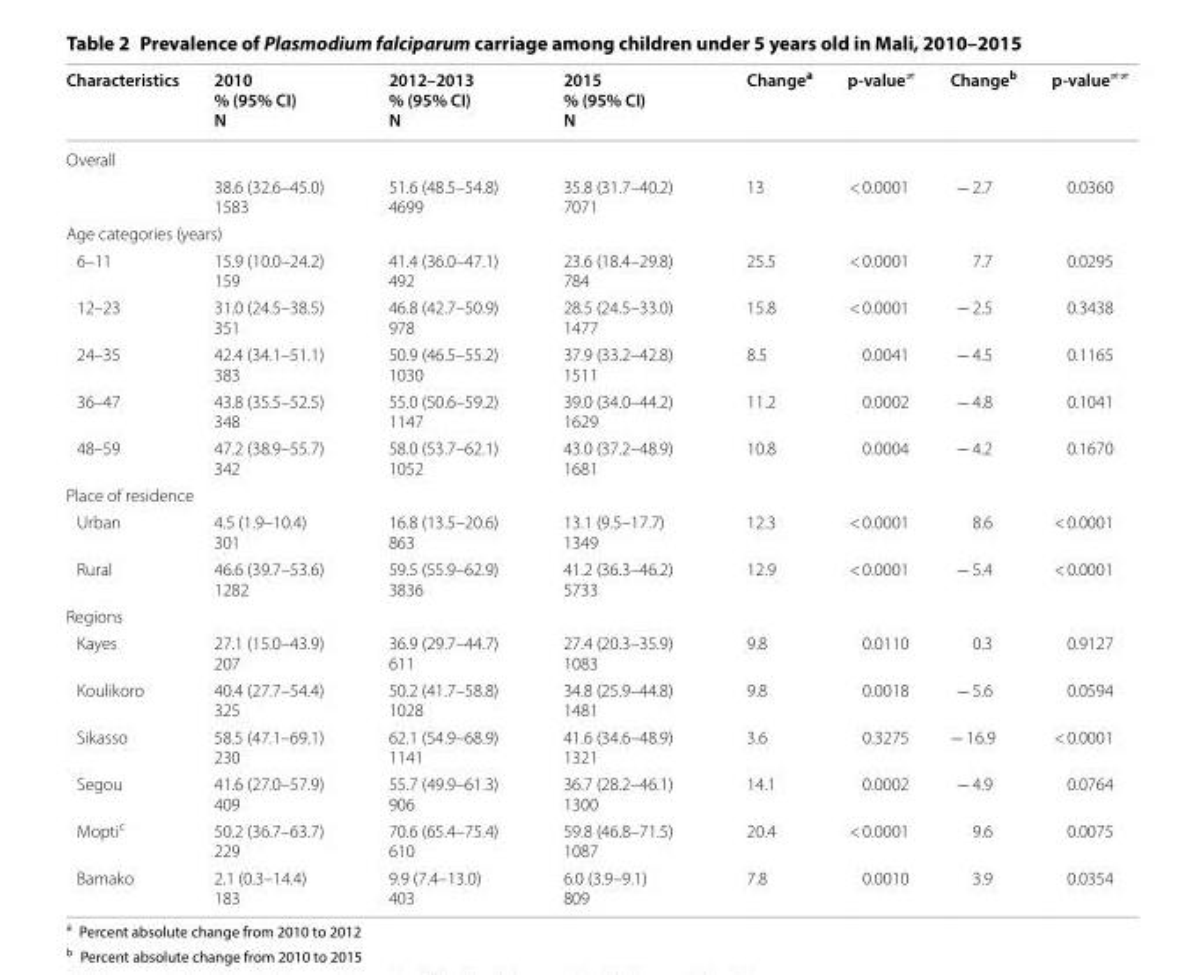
<table><thead><tr><td>Characteristics</td><td>2010 % (95% CI) N</td><td>2012–2013 % (95% CI) N</td><td>2015 % (95% CI) N</td><td>Change<sup>a</sup></td><td>p-value<sup>≠</sup></td><td>Change<sup>b</sup></td><td>p-value<sup>≠≠</sup></td></tr></thead><tbody><tr><td colspan="8">Overall</td></tr><tr><td></td><td>38.6 (32.6–45.0) 1583</td><td>51.6 (48.5–54.8) 4699</td><td>35.8 (31.7–40.2) 7071</td><td>13</td><td>&lt; 0.0001</td><td>− 2.7</td><td>0.0360</td></tr><tr><td colspan="8">Age categories (years)</td></tr><tr><td>6–11</td><td>15.9 (10.0–24.2) 159</td><td>41.4 (36.0–47.1) 492</td><td>23.6 (18.4–29.8) 784</td><td>25.5</td><td>&lt; 0.0001</td><td>7.7</td><td>0.0295</td></tr><tr><td>12–23</td><td>31.0 (24.5–38.5) 351</td><td>46.8 (42.7–50.9) 978</td><td>28.5 (24.5–33.0) 1477</td><td>15.8</td><td>&lt; 0.0001</td><td>− 2.5</td><td>0.3438</td></tr><tr><td>24–35</td><td>42.4 (34.1–51.1) 383</td><td>50.9 (46.5–55.2) 1030</td><td>37.9 (33.2–42.8) 1511</td><td>8.5</td><td>0.0041</td><td>− 4.5</td><td>0.1165</td></tr><tr><td>36–47</td><td>43.8 (35.5–52.5) 348</td><td>55.0 (50.6–59.2) 1147</td><td>39.0 (34.0–44.2) 1629</td><td>11.2</td><td>0.0002</td><td>− 4.8</td><td>0.1041</td></tr><tr><td>48–59</td><td>47.2 (38.9–55.7) 342</td><td>58.0 (53.7–62.1) 1052</td><td>43.0 (37.2–48.9) 1681</td><td>10.8</td><td>0.0004</td><td>− 4.2</td><td>0.1670</td></tr><tr><td colspan="8">Place of residence</td></tr><tr><td>Urban</td><td>4.5 (1.9–10.4) 301</td><td>16.8 (13.5–20.6) 863</td><td>13.1 (9.5–17.7) 1349</td><td>12.3</td><td>&lt; 0.0001</td><td>8.6</td><td>&lt; 0.0001</td></tr><tr><td>Rural</td><td>46.6 (39.7–53.6) 1282</td><td>59.5 (55.9–62.9) 3836</td><td>41.2 (36.3–46.2) 5733</td><td>12.9</td><td>&lt; 0.0001</td><td>− 5.4</td><td>&lt; 0.0001</td></tr><tr><td colspan="8">Regions</td></tr><tr><td>Kayes</td><td>27.1 (15.0–43.9) 207</td><td>36.9 (29.7–44.7) 611</td><td>27.4 (20.3–35.9) 1083</td><td>9.8</td><td>0.0110</td><td>0.3</td><td>0.9127</td></tr><tr><td>Koulikoro</td><td>40.4 (27.7–54.4) 325</td><td>50.2 (41.7–58.8) 1028</td><td>34.8 (25.9–44.8) 1481</td><td>9.8</td><td>0.0018</td><td>− 5.6</td><td>0.0594</td></tr><tr><td>Sikasso</td><td>58.5 (47.1–69.1) 230</td><td>62.1 (54.9–68.9) 1141</td><td>41.6 (34.6–48.9) 1321</td><td>3.6</td><td>0.3275</td><td>− 16.9</td><td>&lt; 0.0001</td></tr><tr><td>Segou</td><td>41.6 (27.0–57.9) 409</td><td>55.7 (49.9–61.3) 906</td><td>36.7 (28.2–46.1) 1300</td><td>14.1</td><td>0.0002</td><td>− 4.9</td><td>0.0764</td></tr><tr><td>Mopti<sup>c</sup></td><td>50.2 (36.7–63.7) 229</td><td>70.6 (65.4–75.4) 610</td><td>59.8 (46.8–71.5) 1087</td><td>20.4</td><td>&lt; 0.0001</td><td>9.6</td><td>0.0075</td></tr><tr><td>Bamako</td><td>2.1 (0.3–14.4) 183</td><td>9.9 (7.4–13.0) 403</td><td>6.0 (3.9–9.1) 809</td><td>7.8</td><td>0.0010</td><td>3.9</td><td>0.0354</td></tr></tbody></table>